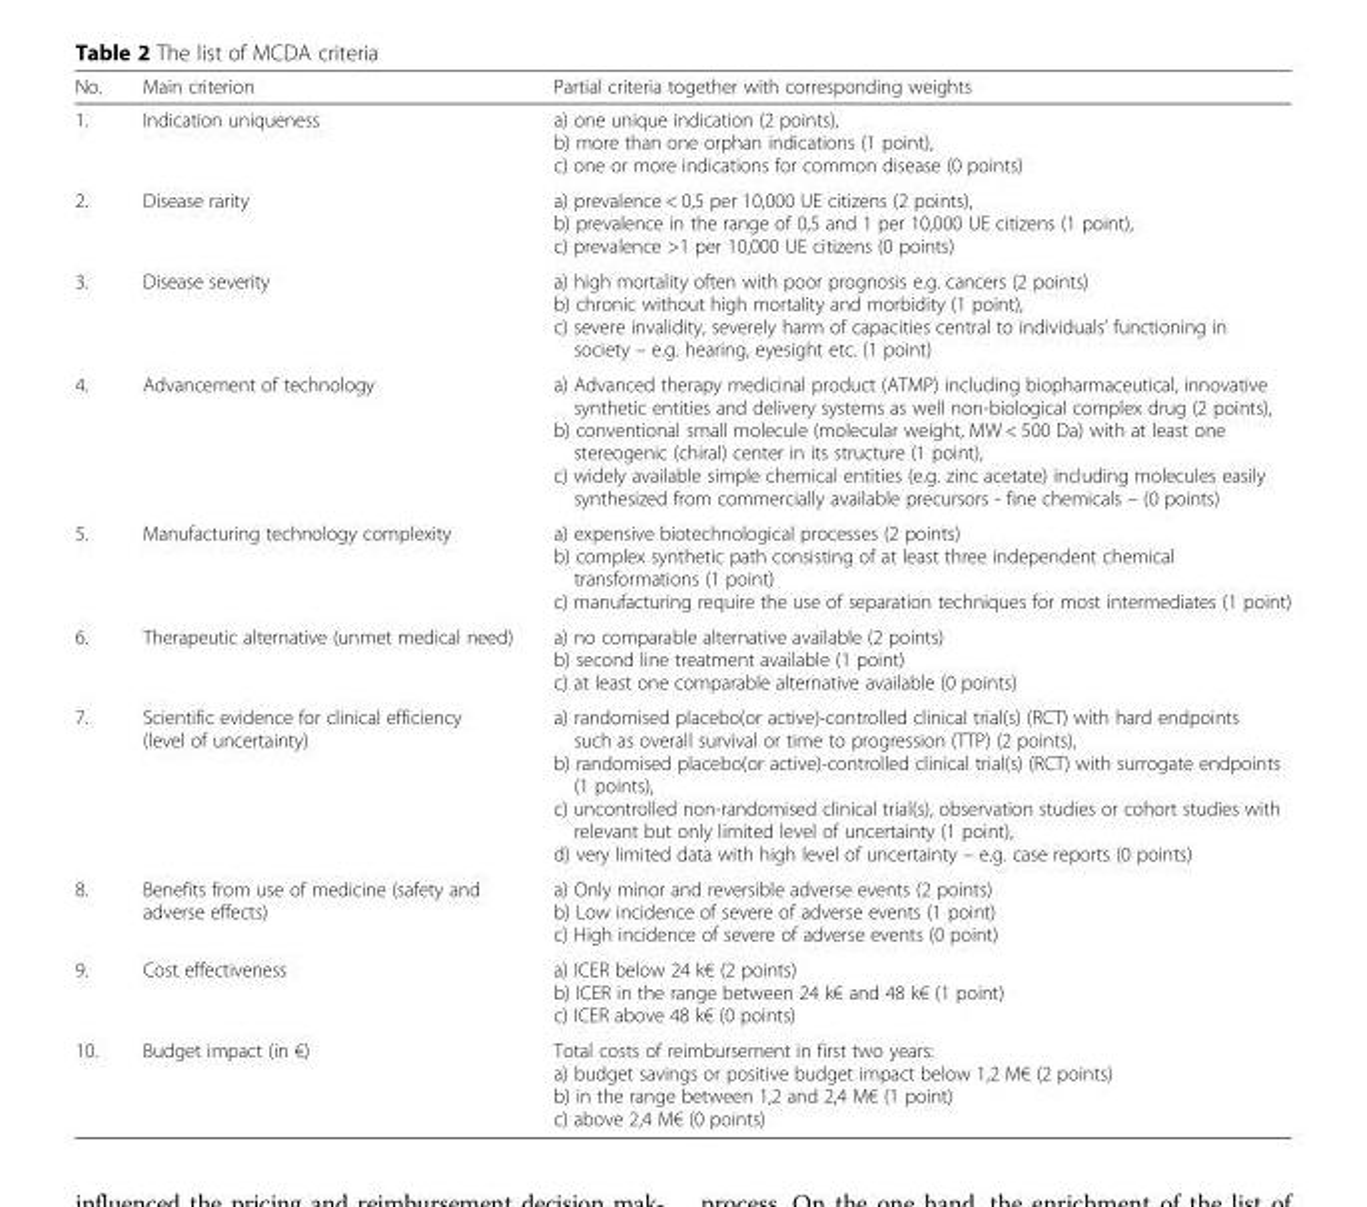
<table><thead><tr><td>No.</td><td>Main criterion</td><td>Partial criteria together with corresponding weights</td></tr></thead><tbody><tr><td>1.</td><td>Indication uniqueness</td><td>a) one unique indication (2 points), b) more than one orphan indications (1 point), c) one or more indications for common disease (0 points)</td></tr><tr><td>2.</td><td>Disease rarity</td><td>a) prevalence &lt; 0,5 per 10,000 UE citizens (2 points), b) prevalence in the range of 0,5 and 1 per 10,000 UE citizens (1 point), c) prevalence &gt;1 per 10,000 UE citizens (0 points)</td></tr><tr><td>3.</td><td>Disease severity</td><td>a) high mortality often with poor prognosis e.g. cancers (2 points) b) chronic without high mortality and morbidity (1 point), c) severe invalidity, severely harm of capacities central to individuals’ functioning in society – e.g. hearing, eyesight etc. (1 point)</td></tr><tr><td>4.</td><td>Advancement of technology</td><td>a) Advanced therapy medicinal product (ATMP) including biopharmaceutical, innovative synthetic entities and delivery systems as well non-biological complex drug (2 points), b) conventional small molecule (molecular weight, MW &lt; 500 Da) with at least one stereogenic (chiral) center in its structure (1 point), c) widely available simple chemical entities (e.g. zinc acetate) including molecules easily synthesized from commercially available precursors - fine chemicals – (0 points)</td></tr><tr><td>5.</td><td>Manufacturing technology complexity</td><td>a) expensive biotechnological processes (2 points) b) complex synthetic path consisting of at least three independent chemical transformations (1 point) c) manufacturing require the use of separation techniques for most intermediates (1 point)</td></tr><tr><td>6.</td><td>Therapeutic alternative (unmet medical need)</td><td>a) no comparable alternative available (2 points) b) second line treatment available (1 point) c) at least one comparable alternative available (0 points)</td></tr><tr><td>7.</td><td>Scientific evidence for clinical efficiency (level of uncertainty)</td><td>a) randomised placebo(or active)-controlled clinical trial(s) (RCT) with hard endpoints such as overall survival or time to progression (TTP) (2 points), b) randomised placebo(or active)-controlled clinical trial(s) (RCT) with surrogate endpoints (1 points), c) uncontrolled non-randomised clinical trial(s), observation studies or cohort studies with relevant but only limited level of uncertainty (1 point), d) very limited data with high level of uncertainty – e.g. case reports (0 points)</td></tr><tr><td>8.</td><td>Benefits from use of medicine (safety and adverse effects)</td><td>a) Only minor and reversible adverse events (2 points) b) Low incidence of severe of adverse events (1 point) c) High incidence of severe of adverse events (0 point)</td></tr><tr><td>9.</td><td>Cost effectiveness</td><td>a) ICER below 24 k€ (2 points) b) ICER in the range between 24 k€ and 48 k€ (1 point) c) ICER above 48 k€ (0 points)</td></tr><tr><td>10.</td><td>Budget impact (in €)</td><td>Total costs of reimbursement in first two years: a) budget savings or positive budget impact below 1,2 M€ (2 points) b) in the range between 1,2 and 2,4 M€ (1 point) c) above 2,4 M€ (0 points)</td></tr></tbody></table>